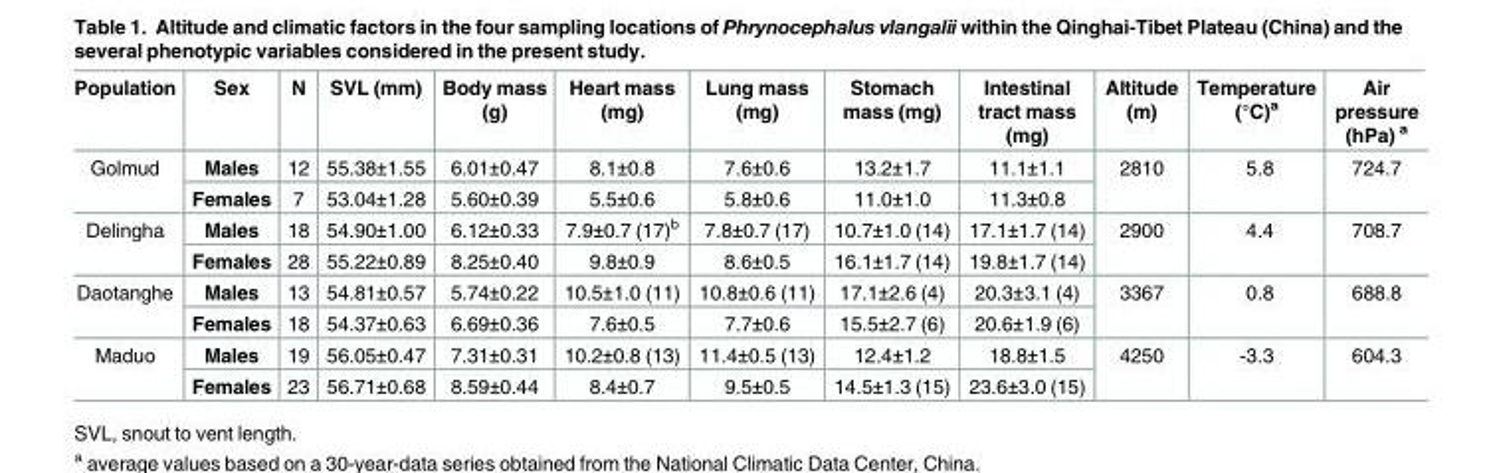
<table><thead><tr><td>Population</td><td>Sex</td><td>N</td><td>SVL (mm)</td><td>Body mass (g)</td><td>Heart mass (mg)</td><td>Lung mass (mg)</td><td>Stomach mass (mg)</td><td>Intestinal tract mass (mg)</td><td>Altitude (m)</td><td>Temperature (°C)<sup>a</sup></td><td>Air pressure (hPa) <sup>a</sup></td></tr></thead><tbody><tr><td rowspan="2">Golmud</td><td>Males</td><td>12</td><td>55.38±1.55</td><td>6.01±0.47</td><td>8.1±0.8</td><td>7.6±0.6</td><td>13.2±1.7</td><td>11.1±1.1</td><td rowspan="2">2810</td><td rowspan="2">5.8</td><td rowspan="2">724.7</td></tr><tr><td>Females</td><td>7</td><td>53.04±1.28</td><td>5.60±0.39</td><td>5.5±0.6</td><td>5.8±0.6</td><td>11.0±1.0</td><td>11.3±0.8</td></tr><tr><td rowspan="2">Delingha</td><td>Males</td><td>18</td><td>54.90±1.00</td><td>6.12±0.33</td><td>7.9±0.7 (17)<sup>b</sup></td><td>7.8±0.7 (17)</td><td>10.7±1.0 (14)</td><td>17.1±1.7 (14)</td><td rowspan="2">2900</td><td rowspan="2">4.4</td><td rowspan="2">708.7</td></tr><tr><td>Females</td><td>28</td><td>55.22±0.89</td><td>8.25±0.40</td><td>9.8±0.9</td><td>8.6±0.5</td><td>16.1±1.7 (14)</td><td>19.8±1.7 (14)</td></tr><tr><td rowspan="2">Daotanghe</td><td>Males</td><td>13</td><td>54.81±0.57</td><td>5.74±0.22</td><td>10.5±1.0 (11)</td><td>10.8±0.6 (11)</td><td>17.1±2.6 (4)</td><td>20.3±3.1 (4)</td><td rowspan="2">3367</td><td rowspan="2">0.8</td><td rowspan="2">688.8</td></tr><tr><td>Females</td><td>18</td><td>54.37±0.63</td><td>6.69±0.36</td><td>7.6±0.5</td><td>7.7±0.6</td><td>15.5±2.7 (6)</td><td>20.6±1.9 (6)</td></tr><tr><td rowspan="2">Maduo</td><td>Males</td><td>19</td><td>56.05±0.47</td><td>7.31±0.31</td><td>10.2±0.8 (13)</td><td>11.4±0.5 (13)</td><td>12.4±1.2</td><td>18.8±1.5</td><td rowspan="2">4250</td><td rowspan="2">-3.3</td><td rowspan="2">604.3</td></tr><tr><td>Females</td><td>23</td><td>56.71±0.68</td><td>8.59±0.44</td><td>8.4±0.7</td><td>9.5±0.5</td><td>14.5±1.3 (15)</td><td>23.6±3.0 (15)</td></tr></tbody></table>